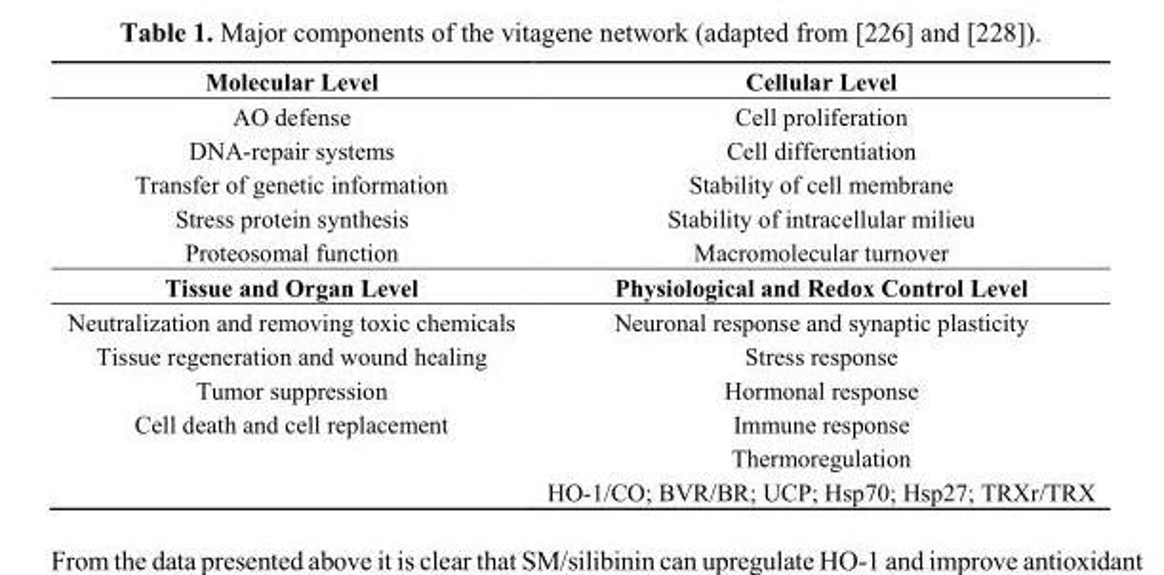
<table><tbody><tr><td>Molecular Level</td><td>Cellular Level</td></tr><tr><td>AO defense</td><td>Cell proliferation</td></tr><tr><td>DNA-repair systems</td><td>Cell differentiation</td></tr><tr><td>Transfer of genetic information</td><td>Stability of cell membrane</td></tr><tr><td>Stress protein synthesis</td><td>Stability of intracellular milieu</td></tr><tr><td>Proteosomal function</td><td>Macromolecular turnover</td></tr><tr><td>Tissue and Organ Level</td><td>Physiological and Redox Control Level</td></tr><tr><td>Neutralization and removing toxic chemicals</td><td>Neuronal response and synaptic plasticity</td></tr><tr><td>Tissue regeneration and wound healing</td><td>Stress response</td></tr><tr><td>Tumor suppression</td><td>Hormonal response</td></tr><tr><td rowspan="3">Cell death and cell replacement</td><td>Immune response</td></tr><tr><td>Thermoregulation</td></tr><tr><td>HO-1/CO; BVR/BR; UCP; Hsp70; Hsp27; TRXr/TRX</td></tr></tbody></table>